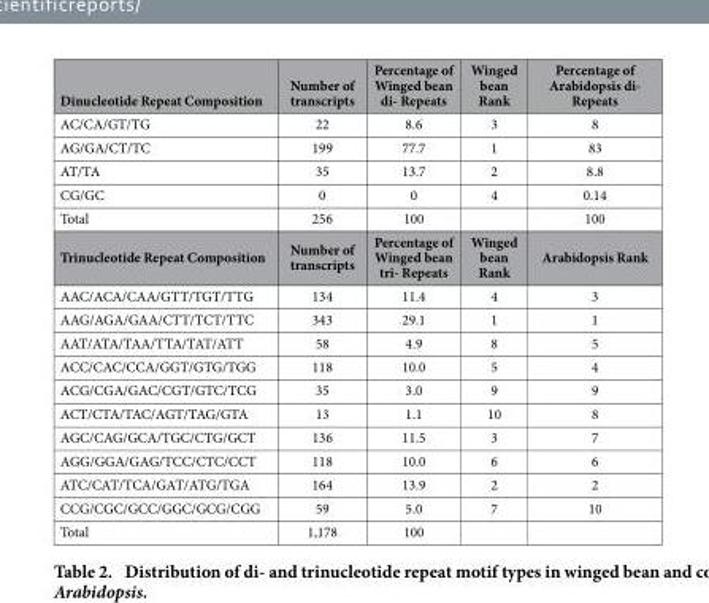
<table><thead><tr><td>Dinucleotide Repeat Composition</td><td>Number of transcripts</td><td>Percentage of Winged bean di- Repeats</td><td>Winged bean Rank</td><td>Percentage of Arabidopsis di- Repeats</td></tr></thead><tbody><tr><td>AC/CA/GT/TG</td><td>22</td><td>8.6</td><td>3</td><td>8</td></tr><tr><td>AG/GA/CT/TC</td><td>199</td><td>77.7</td><td>1</td><td>83</td></tr><tr><td>AT/TA</td><td>35</td><td>13.7</td><td>2</td><td>8.8</td></tr><tr><td>CG/GC</td><td>0</td><td>0</td><td>4</td><td>0.14</td></tr><tr><td>Total</td><td>256</td><td>100</td><td></td><td>100</td></tr><tr><td>Trinucleotide Repeat Composition</td><td>Number of transcripts</td><td>Percentage of Winged bean tri- Repeats</td><td>Winged bean Rank</td><td>Arabidopsis Rank</td></tr><tr><td>AAC/ACA/CAA/GTT/TGT/TTG</td><td>134</td><td>11.4</td><td>4</td><td>3</td></tr><tr><td>AAG/AGA/GAA/CTT/TCT/TTC</td><td>343</td><td>29.1</td><td>1</td><td>1</td></tr><tr><td>AAT/ATA/TAA/TTA/TAT/ATT</td><td>58</td><td>4.9</td><td>8</td><td>5</td></tr><tr><td>ACC/CAC/CCA/GGT/GTG/TGG</td><td>118</td><td>10.0</td><td>5</td><td>4</td></tr><tr><td>ACG/CGA/GAC/CGT/GTC/TCG</td><td>35</td><td>3.0</td><td>9</td><td>9</td></tr><tr><td>ACT/CTA/TAC/AGT/TAG/GTA</td><td>13</td><td>1.1</td><td>10</td><td>8</td></tr><tr><td>AGC/CAG/GCA/TGC/CTG/GCT</td><td>136</td><td>11.5</td><td>3</td><td>7</td></tr><tr><td>AGG/GGA/GAG/TCC/CTC/CCT</td><td>118</td><td>10.0</td><td>6</td><td>6</td></tr><tr><td>ATC/CAT/TCA/GAT/ATG/TGA</td><td>164</td><td>13.9</td><td>2</td><td>2</td></tr><tr><td>CCG/CGC/GCC/GGC/GCG/CGG</td><td>59</td><td>5.0</td><td>7</td><td>10</td></tr><tr><td>Total</td><td>1,178</td><td>100</td><td></td><td></td></tr></tbody></table>